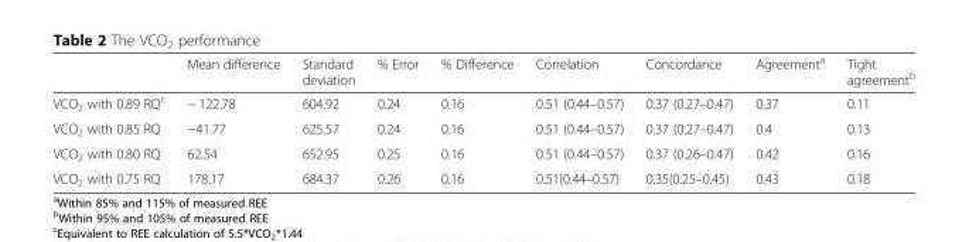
<table><thead><tr><td></td><td>Mean difference</td><td>Standard deviation</td><td>% Error</td><td>% Difference</td><td>Correlation</td><td>Concordance</td><td>Agreement<sup>a</sup></td><td>Tight agreement<sup>b</sup></td></tr></thead><tbody><tr><td>VCO<sub>2</sub> with 0.89 RQ<sup>c</sup></td><td>− 122.78</td><td>604.92</td><td>0.24</td><td>0.16</td><td>0.51 (0.44–0.57)</td><td>0.37 (0.27–0.47)</td><td>0.37</td><td>0.11</td></tr><tr><td>VCO<sub>2</sub> with 0.85 RQ</td><td>−41.77</td><td>625.57</td><td>0.24</td><td>0.16</td><td>0.51 (0.44–0.57)</td><td>0.37 (0.27–0.47)</td><td>0.4</td><td>0.13</td></tr><tr><td>VCO<sub>2</sub> with 0.80 RQ</td><td>62.54</td><td>652.95</td><td>0.25</td><td>0.16</td><td>0.51 (0.44–0.57)</td><td>0.37 (0.26–0.47)</td><td>0.42</td><td>0.16</td></tr><tr><td>VCO<sub>2</sub> with 0.75 RQ</td><td>178.17</td><td>684.37</td><td>0.26</td><td>0.16</td><td>0.51(0.44–0.57)</td><td>0.35(0.25–0.45)</td><td>0.43</td><td>0.18</td></tr></tbody></table>